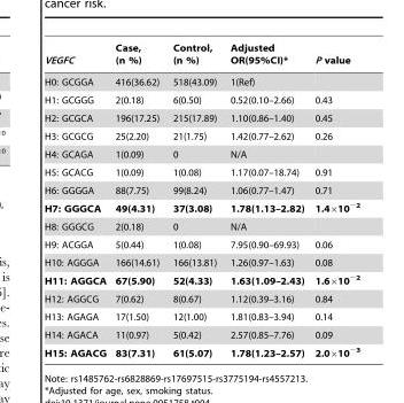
<table><thead><tr><td>VEGFC</td><td>Case, (n %)</td><td>Control, (n %)</td><td>Adjusted OR(95%CI)*</td><td>P value</td></tr></thead><tbody><tr><td>H0: GCGGA</td><td>416(36.62)</td><td>518(43.09)</td><td>1(Ref)</td><td></td></tr><tr><td>H1: GCGGG</td><td>2(0.18)</td><td>6(0.50)</td><td>0.52(0.10–2.66)</td><td>0.43</td></tr><tr><td>H2: GCGCA</td><td>196(17.25)</td><td>215(17.89)</td><td>1.10(0.86–1.40)</td><td>0.45</td></tr><tr><td>H3: GCGCG</td><td>25(2.20)</td><td>21(1.75)</td><td>1.42(0.77–2.62)</td><td>0.26</td></tr><tr><td>H4: GCAGA</td><td>1(0.09)</td><td>0</td><td>N/A</td><td></td></tr><tr><td>H5: GCACG</td><td>1(0.09)</td><td>1(0.08)</td><td>1.17(0.07–18.74)</td><td>0.91</td></tr><tr><td>H6: GGGGA</td><td>88(7.75)</td><td>99(8.24)</td><td>1.06(0.77–1.47)</td><td>0.71</td></tr><tr><td>H7: GGGCA</td><td>49(4.31)</td><td>37(3.08)</td><td>1.78(1.13–2.82)</td><td>1.4×10<sup>−2</sup></td></tr><tr><td>H8: GGGCG</td><td>2(0.18)</td><td>0</td><td>N/A</td><td></td></tr><tr><td>H9: ACGGA</td><td>5(0.44)</td><td>1(0.08)</td><td>7.95(0.90–69.93)</td><td>0.06</td></tr><tr><td>H10: AGGGA</td><td>166(14.61)</td><td>166(13.81)</td><td>1.26(0.97–1.63)</td><td>0.08</td></tr><tr><td>H11: AGGCA</td><td>67(5.90)</td><td>52(4.33)</td><td>1.63(1.09–2.43)</td><td>1.6×10<sup>−2</sup></td></tr><tr><td>H12: AGGCG</td><td>7(0.62)</td><td>8(0.67)</td><td>1.12(0.39–3.16)</td><td>0.84</td></tr><tr><td>H13: AGAGA</td><td>17(1.50)</td><td>12(1.00)</td><td>1.81(0.83–3.94)</td><td>0.14</td></tr><tr><td>H14: AGACA</td><td>11(0.97)</td><td>5(0.42)</td><td>2.57(0.85–7.76)</td><td>0.09</td></tr><tr><td>H15: AGACG</td><td>83(7.31)</td><td>61(5.07)</td><td>1.78(1.23–2.57)</td><td>2.0×10<sup>−3</sup></td></tr></tbody></table>